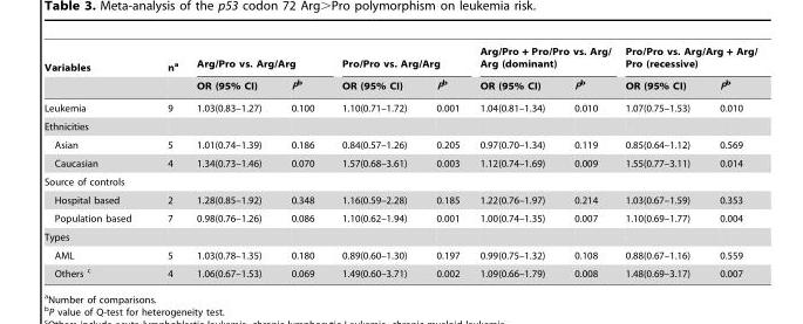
<table><thead><tr><td rowspan="2">Variables</td><td rowspan="2">n<sup>a</sup></td><td colspan="2">Arg/Pro vs. Arg/Arg</td><td colspan="2">Pro/Pro vs. Arg/Arg</td><td colspan="2">Arg/Pro + Pro/Pro vs. Arg/ Arg (dominant)</td><td colspan="2">Pro/Pro vs. Arg/Arg + Arg/ Pro (recessive)</td></tr><tr><td>OR (95% CI)</td><td>Pb</td><td>OR (95% CI)</td><td>Pb</td><td>OR (95% CI)</td><td>Pb</td><td>OR (95% CI)</td><td>Pb</td></tr></thead><tbody><tr><td>Leukemia</td><td>9</td><td>1.03(0.83–1.27)</td><td>0.100</td><td>1.10(0.71–1.72)</td><td>0.001</td><td>1.04(0.81–1.34)</td><td>0.010</td><td>1.07(0.75–1.53)</td><td>0.010</td></tr><tr><td colspan="10">Ethnicities</td></tr><tr><td>Asian</td><td>5</td><td>1.01(0.74–1.39)</td><td>0.186</td><td>0.84(0.57–1.26)</td><td>0.205</td><td>0.97(0.70–1.34)</td><td>0.119</td><td>0.85(0.64–1.12)</td><td>0.569</td></tr><tr><td>Caucasian</td><td>4</td><td>1.34(0.73–1.46)</td><td>0.070</td><td>1.57(0.68–3.61)</td><td>0.003</td><td>1.12(0.74–1.69)</td><td>0.009</td><td>1.55(0.77–3.11)</td><td>0.014</td></tr><tr><td colspan="10">Source of controls</td></tr><tr><td>Hospital based</td><td>2</td><td>1.28(0.85–1.92)</td><td>0.348</td><td>1.16(0.59–2.28)</td><td>0.185</td><td>1.22(0.76–1.97)</td><td>0.214</td><td>1.03(0.67–1.59)</td><td>0.353</td></tr><tr><td>Population based</td><td>7</td><td>0.98(0.76–1.26)</td><td>0.086</td><td>1.10(0.62–1.94)</td><td>0.001</td><td>1.00(0.74–1.35)</td><td>0.007</td><td>1.10(0.69–1.77)</td><td>0.004</td></tr><tr><td colspan="10">Types</td></tr><tr><td>AML</td><td>5</td><td>1.03(0.78–1.35)</td><td>0.180</td><td>0.89(0.60–1.30)</td><td>0.197</td><td>0.99(0.75–1.32)</td><td>0.108</td><td>0.88(0.67–1.16)</td><td>0.559</td></tr><tr><td>Others c</td><td>4</td><td>1.06(0.67–1.53)</td><td>0.069</td><td>1.49(0.60–3.71)</td><td>0.002</td><td>1.09(0.66–1.79)</td><td>0.008</td><td>1.48(0.69–3.17)</td><td>0.007</td></tr></tbody></table>